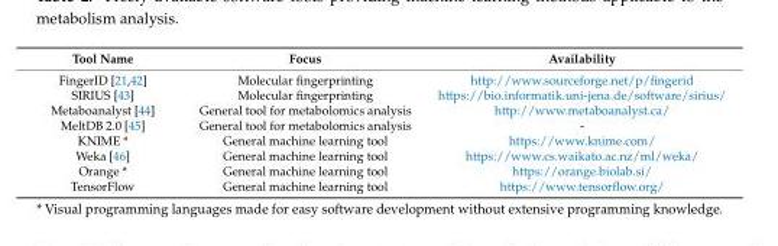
<table><thead><tr><td>Tool Name</td><td>Focus</td><td>Availability</td></tr></thead><tbody><tr><td>FingerID [21,42]</td><td>Molecular fingerprinting</td><td>http://www.sourceforge.net/p/fingerid</td></tr><tr><td>SIRIUS [43]</td><td>Molecular fingerprinting</td><td>https://bio.informatik.uni-jena.de/software/sirius/</td></tr><tr><td>Metaboanalyst [44]</td><td>General tool for metabolomics analysis</td><td>http://www.metaboanalyst.ca/</td></tr><tr><td>MeltDB 2.0 [45]</td><td>General tool for metabolomics analysis</td><td>-</td></tr><tr><td>KNIME *</td><td>General machine learning tool</td><td>https://www.knime.com/</td></tr><tr><td>Weka [46]</td><td>General machine learning tool</td><td>https://www.cs.waikato.ac.nz/ml/weka/</td></tr><tr><td>Orange *</td><td>General machine learning tool</td><td>https://orange.biolab.si/</td></tr><tr><td>TensorFlow</td><td>General machine learning tool</td><td>https://www.tensorflow.org/</td></tr></tbody></table>